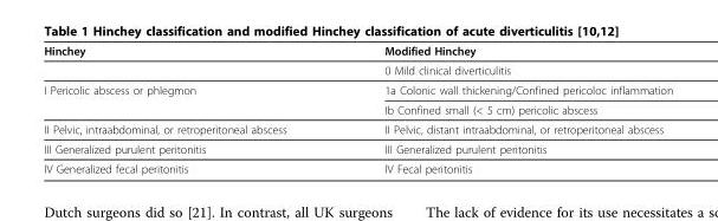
<table><thead><tr><td>Hinchey</td><td>Modified Hinchey</td></tr></thead><tbody><tr><td></td><td>0 Mild clinical diverticulitis</td></tr><tr><td rowspan="2">I Pericolic abscess or phlegmon</td><td>1a Colonic wall thickening/Confined pericoloc inflammation</td></tr><tr><td>Ib Confined small (&lt; 5 cm) pericolic abscess</td></tr><tr><td>II Pelvic, intraabdominal, or retroperitoneal abscess</td><td>II Pelvic, distant intraabdominal, or retroperitoneal abscess</td></tr><tr><td>III Generalized purulent peritonitis</td><td>III Generalized purulent peritonitis</td></tr><tr><td>IV Generalized fecal peritonitis</td><td>IV Fecal peritonitis</td></tr></tbody></table>